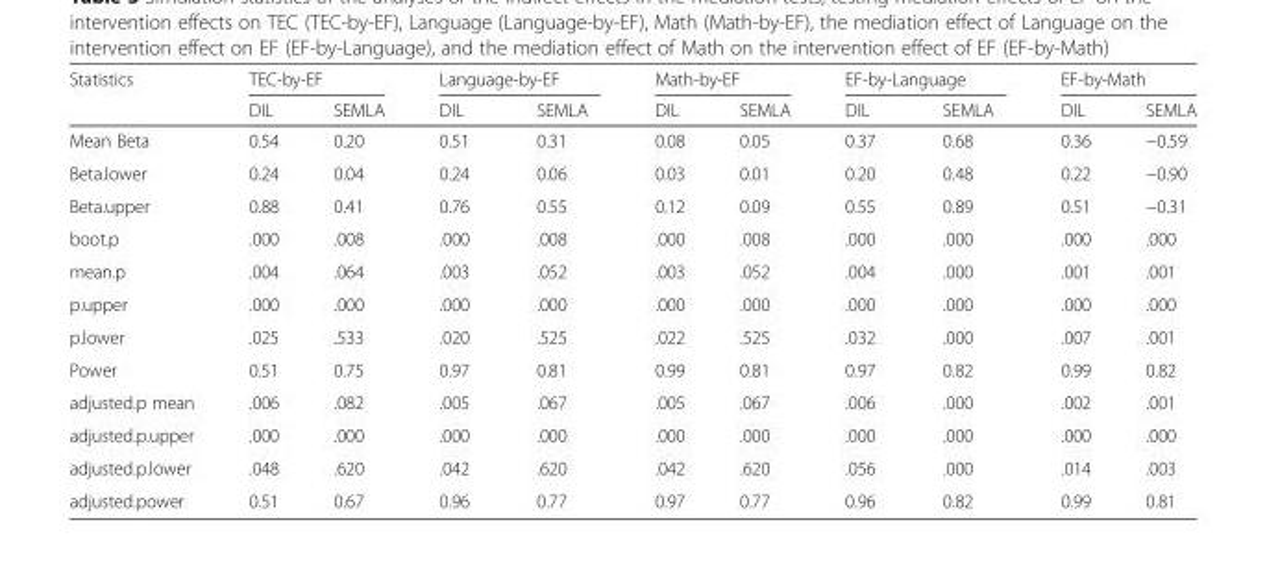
<table><thead><tr><td rowspan="2">Statistics</td><td colspan="2">TEC-by-EF</td><td colspan="2">Language-by-EF</td><td colspan="2">Math-by-EF</td><td colspan="2">EF-by-Language</td><td colspan="2">EF-by-Math</td></tr><tr><td>DIL</td><td>SEMLA</td><td>DIL</td><td>SEMLA</td><td>DIL</td><td>SEMLA</td><td>DIL</td><td>SEMLA</td><td>DIL</td><td>SEMLA</td></tr></thead><tbody><tr><td>Mean Beta</td><td>0.54</td><td>0.20</td><td>0.51</td><td>0.31</td><td>0.08</td><td>0.05</td><td>0.37</td><td>0.68</td><td>0.36</td><td>−0.59</td></tr><tr><td>Beta.lower</td><td>0.24</td><td>0.04</td><td>0.24</td><td>0.06</td><td>0.03</td><td>0.01</td><td>0.20</td><td>0.48</td><td>0.22</td><td>−0.90</td></tr><tr><td>Beta.upper</td><td>0.88</td><td>0.41</td><td>0.76</td><td>0.55</td><td>0.12</td><td>0.09</td><td>0.55</td><td>0.89</td><td>0.51</td><td>−0.31</td></tr><tr><td>boot.p</td><td>.000</td><td>.008</td><td>.000</td><td>.008</td><td>.000</td><td>.008</td><td>.000</td><td>.000</td><td>.000</td><td>.000</td></tr><tr><td>mean.p</td><td>.004</td><td>.064</td><td>.003</td><td>.052</td><td>.003</td><td>.052</td><td>.004</td><td>.000</td><td>.001</td><td>.001</td></tr><tr><td>p.upper</td><td>.000</td><td>.000</td><td>.000</td><td>.000</td><td>.000</td><td>.000</td><td>.000</td><td>.000</td><td>.000</td><td>.000</td></tr><tr><td>p.lower</td><td>.025</td><td>.533</td><td>.020</td><td>.525</td><td>.022</td><td>.525</td><td>.032</td><td>.000</td><td>.007</td><td>.001</td></tr><tr><td>Power</td><td>0.51</td><td>0.75</td><td>0.97</td><td>0.81</td><td>0.99</td><td>0.81</td><td>0.97</td><td>0.82</td><td>0.99</td><td>0.82</td></tr><tr><td>adjusted.p mean</td><td>.006</td><td>.082</td><td>.005</td><td>.067</td><td>.005</td><td>.067</td><td>.006</td><td>.000</td><td>.002</td><td>.001</td></tr><tr><td>adjusted.p.upper</td><td>.000</td><td>.000</td><td>.000</td><td>.000</td><td>.000</td><td>.000</td><td>.000</td><td>.000</td><td>.000</td><td>.000</td></tr><tr><td>adjusted.p.lower</td><td>.048</td><td>.620</td><td>.042</td><td>.620</td><td>.042</td><td>.620</td><td>.056</td><td>.000</td><td>.014</td><td>.003</td></tr><tr><td>adjusted.power</td><td>0.51</td><td>0.67</td><td>0.96</td><td>0.77</td><td>0.97</td><td>0.77</td><td>0.96</td><td>0.82</td><td>0.99</td><td>0.81</td></tr></tbody></table>